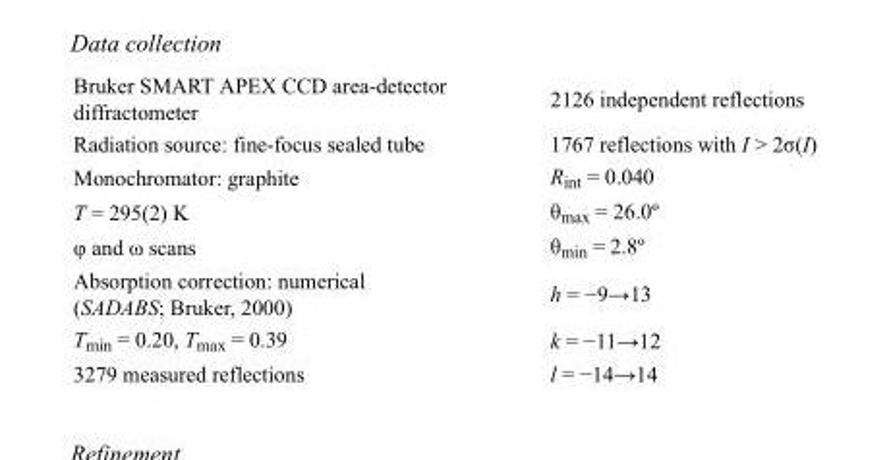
<table><tbody><tr><td>Bruker SMART APEX CCD area-detector diffractometer</td><td>2126 independent reflections</td></tr><tr><td>Radiation source: fine-focus sealed tube</td><td>1767 reflections with I &gt; 2σ(I)</td></tr><tr><td>Monochromator: graphite</td><td>R<sub>int</sub> = 0.040</td></tr><tr><td>T = 295(2) K</td><td>θ<sub>max</sub> = 26.0º</td></tr><tr><td>φ and ω scans</td><td>θ<sub>min</sub> = 2.8º</td></tr><tr><td>Absorption correction: numerical (SADABS; Bruker, 2000)</td><td>h = −9→13</td></tr><tr><td>T<sub>min</sub> = 0.20, T<sub>max</sub> = 0.39</td><td>k = −11→12</td></tr><tr><td>3279 measured reflections</td><td>l = −14→14</td></tr></tbody></table>